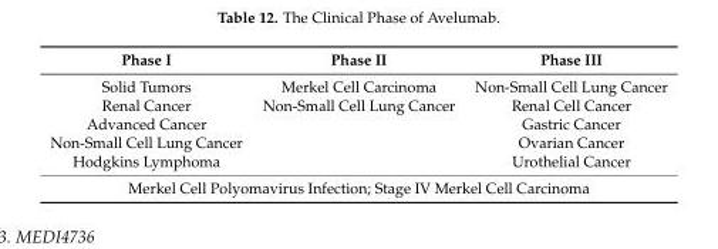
<table><thead><tr><td>Phase I</td><td>Phase II</td><td>Phase III</td></tr></thead><tbody><tr><td>Solid Tumors</td><td>Merkel Cell Carcinoma</td><td>Non-Small Cell Lung Cancer</td></tr><tr><td>Renal Cancer</td><td>Non-Small Cell Lung Cancer</td><td>Renal Cell Cancer</td></tr><tr><td>Advanced Cancer</td><td></td><td>Gastric Cancer</td></tr><tr><td>Non-Small Cell Lung Cancer</td><td></td><td>Ovarian Cancer</td></tr><tr><td>Hodgkins Lymphoma</td><td></td><td>Urothelial Cancer</td></tr><tr><td colspan="3">Merkel Cell Polyomavirus Infection; Stage IV Merkel Cell Carcinoma</td></tr></tbody></table>